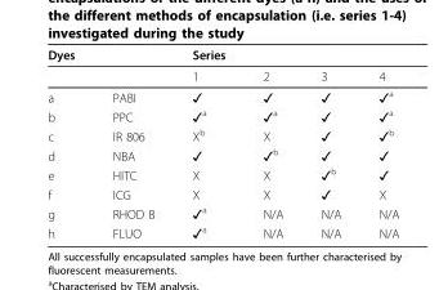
<table><thead><tr><td>Dyes</td><td></td><td>Series</td><td></td><td></td><td></td></tr></thead><tbody><tr><td></td><td></td><td>1</td><td>2</td><td>3</td><td>4</td></tr><tr><td>a</td><td>PABI</td><td>✓</td><td>✓</td><td>✓</td><td>✓<sup>a</sup></td></tr><tr><td>b</td><td>PPC</td><td>✓<sup>a</sup></td><td>✓<sup>a</sup></td><td>✓</td><td>✓<sup>a</sup></td></tr><tr><td>c</td><td>IR 806</td><td>X<sup>b</sup></td><td>X</td><td>✓</td><td>✓<sup>b</sup></td></tr><tr><td>d</td><td>NBA</td><td>✓</td><td>✓<sup>b</sup></td><td>✓</td><td>✓</td></tr><tr><td>e</td><td>HITC</td><td>X</td><td>X</td><td>✓<sup>b</sup></td><td>✓</td></tr><tr><td>f</td><td>ICG</td><td>X</td><td>X</td><td>✓</td><td>X</td></tr><tr><td>g</td><td>RHOD B</td><td>✓<sup>a</sup></td><td>N/A</td><td>N/A</td><td>N/A</td></tr><tr><td>h</td><td>FLUO</td><td>✓<sup>a</sup></td><td>N/A</td><td>N/A</td><td>N/A</td></tr></tbody></table>